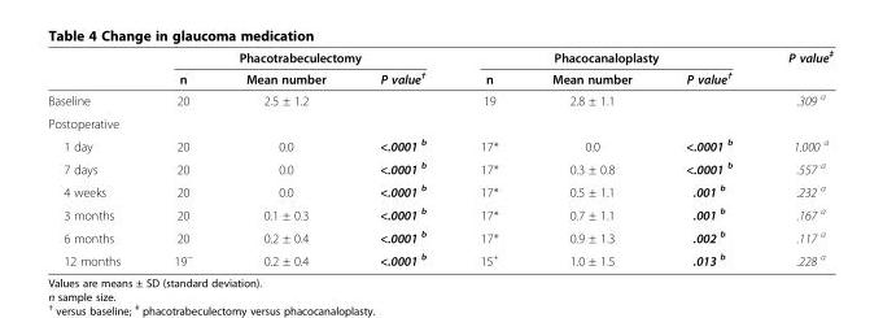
<table><thead><tr><td rowspan="2"></td><td colspan="3">Phacotrabeculectomy</td><td colspan="3">Phacocanaloplasty</td><td rowspan="2">P value<sup>‡</sup></td></tr><tr><td>n</td><td>Mean number</td><td>P value<sup>†</sup></td><td>n</td><td>Mean number</td><td>P value<sup>†</sup></td></tr></thead><tbody><tr><td>Baseline</td><td>20</td><td>2.5 ± 1.2</td><td></td><td>19</td><td>2.8 ± 1.1</td><td></td><td>.309 <sup>a</sup></td></tr><tr><td colspan="8">Postoperative</td></tr><tr><td>1 day</td><td>20</td><td>0.0</td><td>&lt;.0001 <sup>b</sup></td><td>17*</td><td>0.0</td><td>&lt;.0001 <sup>b</sup></td><td>1.000 <sup>a</sup></td></tr><tr><td>7 days</td><td>20</td><td>0.0</td><td>&lt;.0001 <sup>b</sup></td><td>17*</td><td>0.3 ± 0.8</td><td>&lt;.0001 <sup>b</sup></td><td>.557 <sup>a</sup></td></tr><tr><td>4 weeks</td><td>20</td><td>0.0</td><td>&lt;.0001 <sup>b</sup></td><td>17*</td><td>0.5 ± 1.1</td><td>.001 <sup>b</sup></td><td>.232 <sup>a</sup></td></tr><tr><td>3 months</td><td>20</td><td>0.1 ± 0.3</td><td>&lt;.0001 <sup>b</sup></td><td>17*</td><td>0.7 ± 1.1</td><td>.001 <sup>b</sup></td><td>.167 <sup>a</sup></td></tr><tr><td>6 months</td><td>20</td><td>0.2 ± 0.4</td><td>&lt;.0001 <sup>b</sup></td><td>17*</td><td>0.9 ± 1.3</td><td>.002 <sup>b</sup></td><td>.117 <sup>a</sup></td></tr><tr><td>12 months</td><td>19<sup>~</sup></td><td>0.2 ± 0.4</td><td>&lt;.0001 <sup>b</sup></td><td>15<sup>+</sup></td><td>1.0 ± 1.5</td><td>.013 <sup>b</sup></td><td>.228 <sup>a</sup></td></tr></tbody></table>